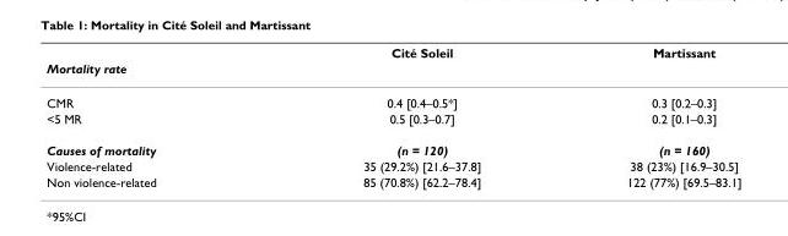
<table><thead><tr><td rowspan="2">Mortality rate</td><td rowspan="2">Cité Soleil</td><td rowspan="2">Martissant</td></tr><tr></tr></thead><tbody><tr><td>CMR</td><td>0.4 [0.4–0.5*]</td><td>0.3 [0.2–0.3]</td></tr><tr><td>&lt;5 MR</td><td>0.5 [0.3–0.7]</td><td>0.2 [0.1–0.3]</td></tr><tr><td>Causes of mortality</td><td>(n = 120)</td><td>(n = 160)</td></tr><tr><td>Violence-related</td><td>35 (29.2%) [21.6–37.8]</td><td>38 (23%) [16.9–30.5]</td></tr><tr><td>Non violence-related</td><td>85 (70.8%) [62.2–78.4]</td><td>122 (77%) [69.5–83.1]</td></tr></tbody></table>